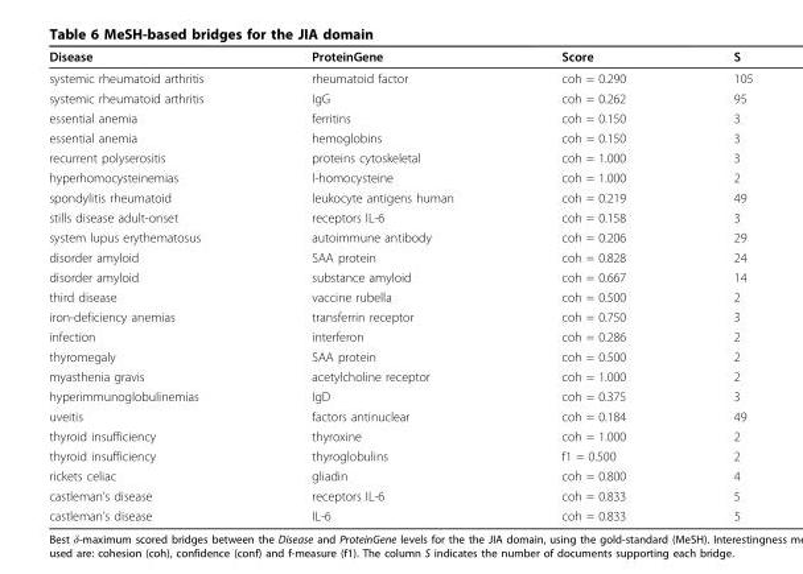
<table><thead><tr><td>Disease</td><td>ProteinGene</td><td>Score</td><td>S</td></tr></thead><tbody><tr><td>systemic rheumatoid arthritis</td><td>rheumatoid factor</td><td>coh = 0.290</td><td>105</td></tr><tr><td>systemic rheumatoid arthritis</td><td>IgG</td><td>coh = 0.262</td><td>95</td></tr><tr><td>essential anemia</td><td>ferritins</td><td>coh = 0.150</td><td>3</td></tr><tr><td>essential anemia</td><td>hemoglobins</td><td>coh = 0.150</td><td>3</td></tr><tr><td>recurrent polyserositis</td><td>proteins cytoskeletal</td><td>coh = 1.000</td><td>3</td></tr><tr><td>hyperhomocysteinemias</td><td>l-homocysteine</td><td>coh = 1.000</td><td>2</td></tr><tr><td>spondylitis rheumatoid</td><td>leukocyte antigens human</td><td>coh = 0.219</td><td>49</td></tr><tr><td>stills disease adult-onset</td><td>receptors IL-6</td><td>coh = 0.158</td><td>3</td></tr><tr><td>system lupus erythematosus</td><td>autoimmune antibody</td><td>coh = 0.206</td><td>29</td></tr><tr><td>disorder amyloid</td><td>SAA protein</td><td>coh = 0.828</td><td>24</td></tr><tr><td>disorder amyloid</td><td>substance amyloid</td><td>coh = 0.667</td><td>14</td></tr><tr><td>third disease</td><td>vaccine rubella</td><td>coh = 0.500</td><td>2</td></tr><tr><td>iron-deficiency anemias</td><td>transferrin receptor</td><td>coh = 0.750</td><td>3</td></tr><tr><td>infection</td><td>interferon</td><td>coh = 0.286</td><td>2</td></tr><tr><td>thyromegaly</td><td>SAA protein</td><td>coh = 0.500</td><td>2</td></tr><tr><td>myasthenia gravis</td><td>acetylcholine receptor</td><td>coh = 1.000</td><td>2</td></tr><tr><td>hyperimmunoglobulinemias</td><td>IgD</td><td>coh = 0.375</td><td>3</td></tr><tr><td>uveitis</td><td>factors antinuclear</td><td>coh = 0.184</td><td>49</td></tr><tr><td>thyroid insufficiency</td><td>thyroxine</td><td>coh = 1.000</td><td>2</td></tr><tr><td>thyroid insufficiency</td><td>thyroglobulins</td><td>f1 = 0.500</td><td>2</td></tr><tr><td>rickets celiac</td><td>gliadin</td><td>coh = 0.800</td><td>4</td></tr><tr><td>castleman’s disease</td><td>receptors IL-6</td><td>coh = 0.833</td><td>5</td></tr><tr><td>castleman’s disease</td><td>IL-6</td><td>coh = 0.833</td><td>5</td></tr></tbody></table>